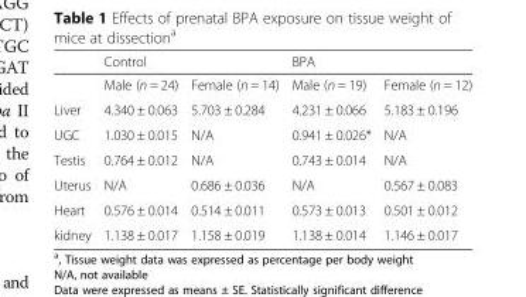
<table><thead><tr><td rowspan="2"></td><td colspan="2">Control</td><td colspan="2">BPA</td></tr><tr><td>Male (n = 24)</td><td>Female (n = 14)</td><td>Male (n = 19)</td><td>Female (n = 12)</td></tr></thead><tbody><tr><td>Liver</td><td>4.340 ± 0.063</td><td>5.703 ± 0.284</td><td>4.231 ± 0.066</td><td>5.183 ± 0.196</td></tr><tr><td>UGC</td><td>1.030 ± 0.015</td><td>N/A</td><td>0.941 ± 0.026*</td><td>N/A</td></tr><tr><td>Testis</td><td>0.764 ± 0.012</td><td>N/A</td><td>0.743 ± 0.014</td><td>N/A</td></tr><tr><td>Uterus</td><td>N/A</td><td>0.686 ± 0.036</td><td>N/A</td><td>0.567 ± 0.083</td></tr><tr><td>Heart</td><td>0.576 ± 0.014</td><td>0.514 ± 0.011</td><td>0.573 ± 0.013</td><td>0.501 ± 0.012</td></tr><tr><td>kidney</td><td>1.138 ± 0.017</td><td>1.158 ± 0.019</td><td>1.138 ± 0.014</td><td>1.146 ± 0.017</td></tr></tbody></table>